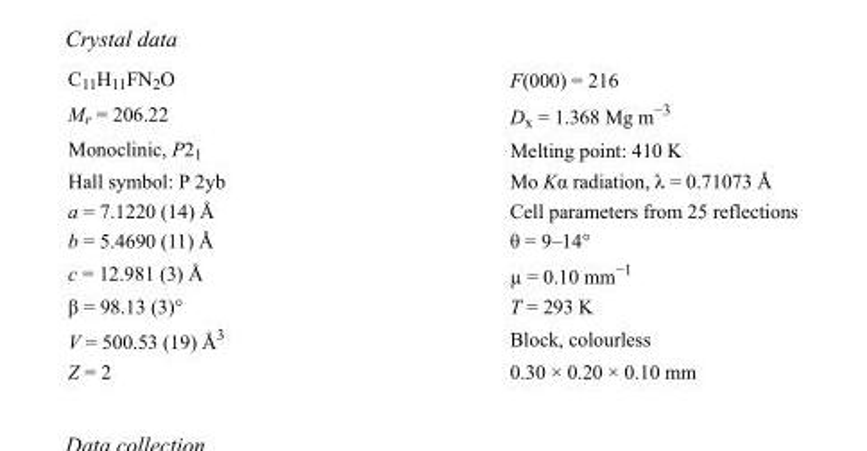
<table><tbody><tr><td>C<sub>11</sub>H<sub>11</sub>FN<sub>2</sub>O</td><td>F(000) = 216</td></tr><tr><td>M<sub>r</sub> = 206.22</td><td>D<sub>x</sub> = 1.368 Mg m<sup>−3</sup></td></tr><tr><td>Monoclinic, P2<sub>1</sub></td><td>Melting point: 410 K</td></tr><tr><td>Hall symbol: P 2yb</td><td>Mo Kα radiation, λ = 0.71073 Å</td></tr><tr><td>a = 7.1220 (14) Å</td><td>Cell parameters from 25 reflections</td></tr><tr><td>b = 5.4690 (11) Å</td><td>θ = 9–14°</td></tr><tr><td>c = 12.981 (3) Å</td><td>µ = 0.10 mm<sup>−1</sup></td></tr><tr><td>β = 98.13 (3)°</td><td>T = 293 K</td></tr><tr><td>V = 500.53 (19) Å<sup>3</sup></td><td>Block, colourless</td></tr><tr><td>Z = 2</td><td>0.30 × 0.20 × 0.10 mm</td></tr></tbody></table>